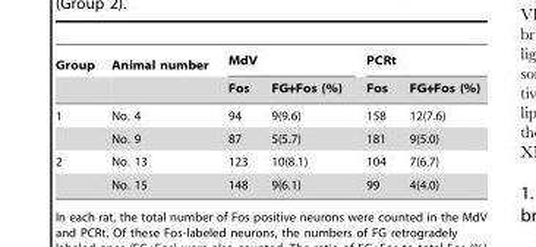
<table><thead><tr><td rowspan="2">Group</td><td rowspan="2">Animal number</td><td colspan="2">MdV</td><td colspan="2">PCRt</td></tr><tr><td>Fos</td><td>FG+Fos (%)</td><td>Fos</td><td>FG+Fos (%)</td></tr></thead><tbody><tr><td rowspan="2">1</td><td>No. 4</td><td>94</td><td>9(9.6)</td><td>158</td><td>12(7.6)</td></tr><tr><td>No. 9</td><td>87</td><td>5(5.7)</td><td>181</td><td>9(5.0)</td></tr><tr><td rowspan="2">2</td><td>No. 13</td><td>123</td><td>10(8.1)</td><td>104</td><td>7(6.7)</td></tr><tr><td>No. 15</td><td>148</td><td>9(6.1)</td><td>99</td><td>4(4.0)</td></tr></tbody></table>